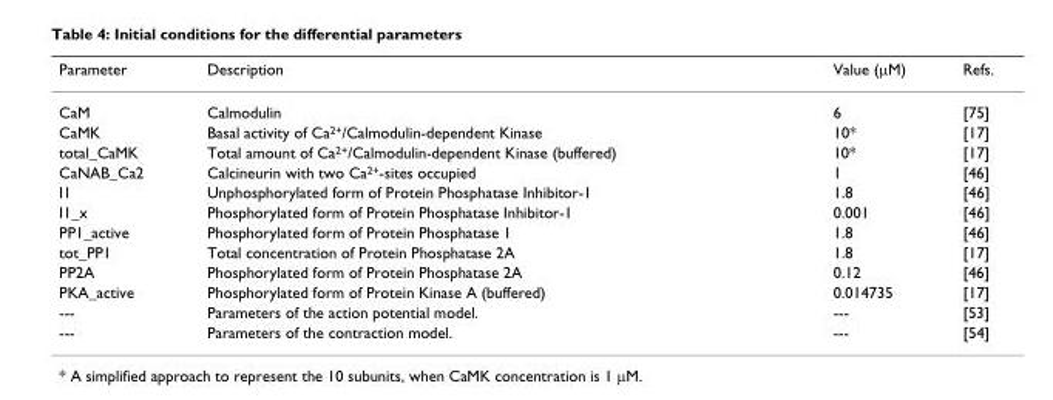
<table><thead><tr><td>Parameter</td><td>Description</td><td>Value (μM)</td><td>Refs.</td></tr></thead><tbody><tr><td>CaM</td><td>Calmodulin</td><td>6</td><td>[75]</td></tr><tr><td>CaMK</td><td>Basal activity of Ca<sup>2+</sup>/Calmodulin-dependent Kinase</td><td>10*</td><td>[17]</td></tr><tr><td>total_CaMK</td><td>Total amount of Ca<sup>2+</sup>/Calmodulin-dependent Kinase (buffered)</td><td>10*</td><td>[17]</td></tr><tr><td>CaNAB_Ca2</td><td>Calcineurin with two Ca<sup>2+</sup>-sites occupied</td><td>1</td><td>[46]</td></tr><tr><td>I1</td><td>Unphosphorylated form of Protein Phosphatase Inhibitor-1</td><td>1.8</td><td>[46]</td></tr><tr><td>I1_x</td><td>Phosphorylated form of Protein Phosphatase Inhibitor-1</td><td>0.001</td><td>[46]</td></tr><tr><td>PP1_active</td><td>Phosphorylated form of Protein Phosphatase 1</td><td>1.8</td><td>[46]</td></tr><tr><td>tot_PP1</td><td>Total concentration of Protein Phosphatase 2A</td><td>1.8</td><td>[17]</td></tr><tr><td>PP2A</td><td>Phosphorylated form of Protein Phosphatase 2A</td><td>0.12</td><td>[46]</td></tr><tr><td>PKA_active</td><td>Phosphorylated form of Protein Kinase A (buffered)</td><td>0.014735</td><td>[17]</td></tr><tr><td>---</td><td>Parameters of the action potential model.</td><td>---</td><td>[53]</td></tr><tr><td>---</td><td>Parameters of the contraction model.</td><td>---</td><td>[54]</td></tr></tbody></table>